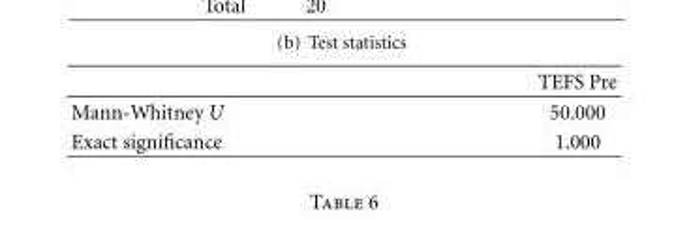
<table><thead><tr><td></td><td>TEFS Pre</td></tr></thead><tbody><tr><td>Mann-Whitney U</td><td>50.000</td></tr><tr><td>Exact significance</td><td>1.000</td></tr></tbody></table>